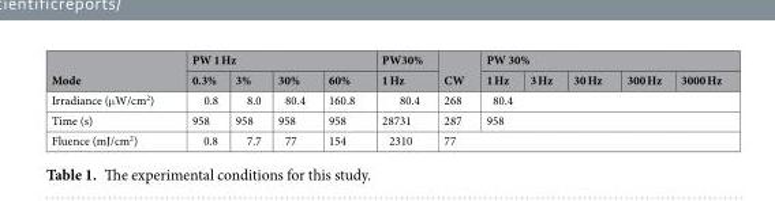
<table><thead><tr><td rowspan="2">Mode</td><td colspan="4">PW 1 Hz</td><td rowspan="2">PW30% 1 Hz</td><td rowspan="2">CW</td><td colspan="5">PW 30%</td></tr><tr><td>0.3%</td><td>3%</td><td>30%</td><td>60%</td><td>1 Hz</td><td>3 Hz</td><td>30 Hz</td><td>300 Hz</td><td>3000 Hz</td></tr></thead><tbody><tr><td>Irradiance (μW/cm<sup>2</sup>)</td><td>0.8</td><td>8.0</td><td>80.4</td><td>160.8</td><td>80.4</td><td>268</td><td colspan="5">80.4</td></tr><tr><td>Time (s)</td><td>958</td><td>958</td><td>958</td><td>958</td><td>28731</td><td>287</td><td colspan="5">958</td></tr><tr><td>Fluence (mJ/cm<sup>2</sup>)</td><td>0.8</td><td>7.7</td><td>77</td><td>154</td><td>2310</td><td colspan="6">77</td></tr></tbody></table>